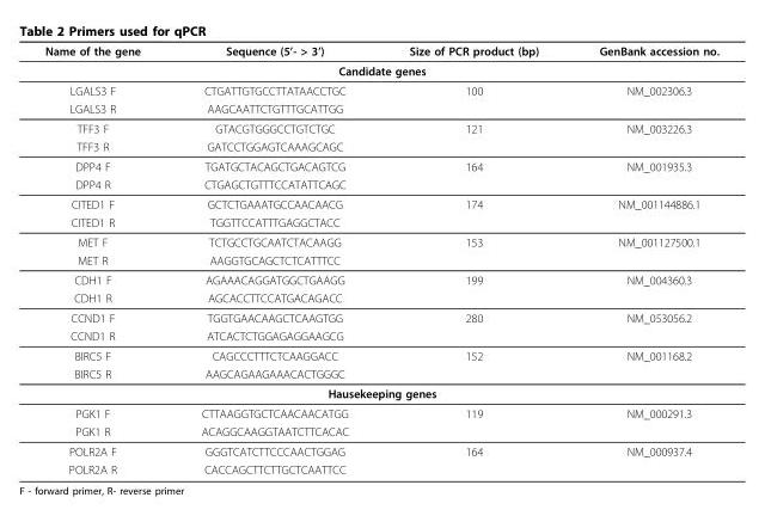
<table><thead><tr><td>Name of the gene</td><td>Sequence (5’- &gt; 3’)</td><td>Size of PCR product (bp)</td><td>GenBank accession no.</td></tr></thead><tbody><tr><td colspan="4">Candidate genes</td></tr><tr><td>LGALS3 F</td><td>CTGATTGTGCCTTATAACCTGC</td><td>100</td><td>NM_002306.3</td></tr><tr><td>LGALS3 R</td><td>AAGCAATTCTGTTTGCATTGG</td><td></td><td></td></tr><tr><td>TFF3 F</td><td>GTACGTGGGCCTGTCTGC</td><td>121</td><td>NM_003226.3</td></tr><tr><td>TFF3 R</td><td>GATCCTGGAGTCAAAGCAGC</td><td></td><td></td></tr><tr><td>DPP4 F</td><td>TGATGCTACAGCTGACAGTCG</td><td>164</td><td>NM_001935.3</td></tr><tr><td>DPP4 R</td><td>CTGAGCTGTTTCCATATTCAGC</td><td></td><td></td></tr><tr><td>CITED1 F</td><td>GCTCTGAAATGCCAACAACG</td><td>174</td><td>NM_001144886.1</td></tr><tr><td>CITED1 R</td><td>TGGTTCCATTTGAGGCTACC</td><td></td><td></td></tr><tr><td>MET F</td><td>TCTGCCTGCAATCTACAAGG</td><td>153</td><td>NM_001127500.1</td></tr><tr><td>MET R</td><td>AAGGTGCAGCTCTCATTTCC</td><td></td><td></td></tr><tr><td>CDH1 F</td><td>AGAAACAGGATGGCTGAAGG</td><td>199</td><td>NM_004360.3</td></tr><tr><td>CDH1 R</td><td>AGCACCTTCCATGACAGACC</td><td></td><td></td></tr><tr><td>CCND1 F</td><td>TGGTGAACAAGCTCAAGTGG</td><td>280</td><td>NM_053056.2</td></tr><tr><td>CCND1 R</td><td>ATCACTCTGGAGAGGAAGCG</td><td></td><td></td></tr><tr><td>BIRC5 F</td><td>CAGCCCTTTCTCAAGGACC</td><td>152</td><td>NM_001168.2</td></tr><tr><td>BIRC5 R</td><td>AAGCAGAAGAAACACTGGGC</td><td></td><td></td></tr><tr><td colspan="4">Hausekeeping genes</td></tr><tr><td>PGK1 F</td><td>CTTAAGGTGCTCAACAACATGG</td><td>119</td><td>NM_000291.3</td></tr><tr><td>PGK1 R</td><td>ACAGGCAAGGTAATCTTCACAC</td><td></td><td></td></tr><tr><td>POLR2A F</td><td>GGGTCATCTTCCCAACTGGAG</td><td>164</td><td>NM_000937.4</td></tr><tr><td>POLR2A R</td><td>CACCAGCTTCTTGCTCAATTCC</td><td></td><td></td></tr></tbody></table>